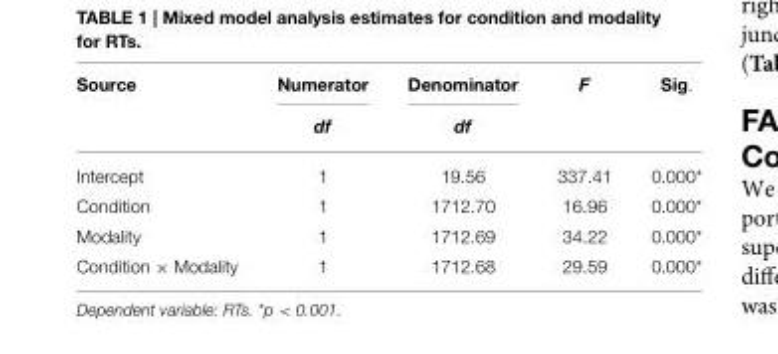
<table><thead><tr><td rowspan="2">Source</td><td rowspan="2">Numerator df</td><td rowspan="2">Denominator df</td><td rowspan="2">F</td><td rowspan="2">Sig.</td></tr><tr></tr></thead><tbody><tr><td>Intercept</td><td>1</td><td>19.56</td><td>337.41</td><td>0.000*</td></tr><tr><td>Condition</td><td>1</td><td>1712.70</td><td>16.96</td><td>0.000*</td></tr><tr><td>Modality</td><td>1</td><td>1712.69</td><td>34.22</td><td>0.000*</td></tr><tr><td>Condition × Modality</td><td>1</td><td>1712.68</td><td>29.59</td><td>0.000*</td></tr></tbody></table>